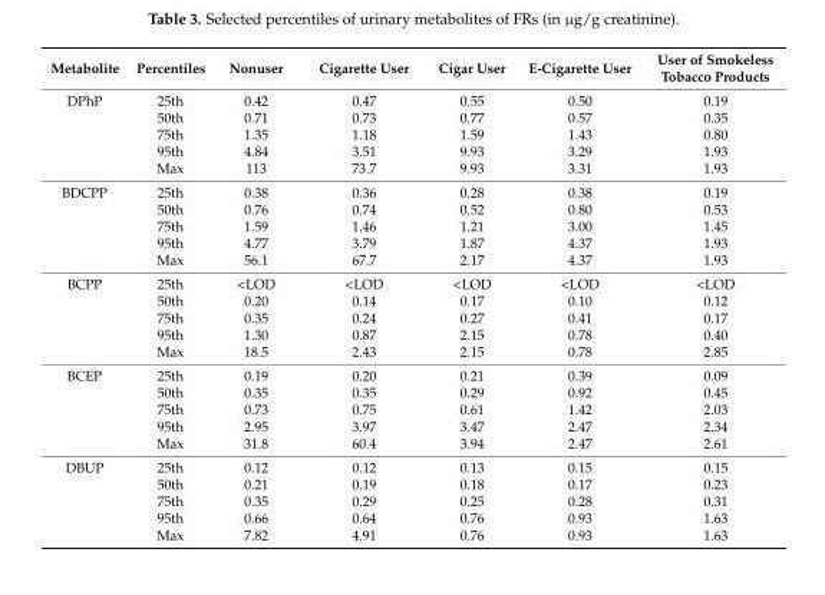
<table><thead><tr><td>Metabolite</td><td>Percentiles</td><td>Nonuser</td><td>Cigarette User</td><td>Cigar User</td><td>E-Cigarette User</td><td>User of Smokeless Tobacco Products</td></tr></thead><tbody><tr><td rowspan="5">DPhP</td><td>25th</td><td>0.42</td><td>0.47</td><td>0.55</td><td>0.50</td><td>0.19</td></tr><tr><td>50th</td><td>0.71</td><td>0.73</td><td>0.77</td><td>0.57</td><td>0.35</td></tr><tr><td>75th</td><td>1.35</td><td>1.18</td><td>1.59</td><td>1.43</td><td>0.80</td></tr><tr><td>95th</td><td>4.84</td><td>3.51</td><td>9.93</td><td>3.29</td><td>1.93</td></tr><tr><td>Max</td><td>113</td><td>73.7</td><td>9.93</td><td>3.31</td><td>1.93</td></tr><tr><td rowspan="5">BDCPP</td><td>25th</td><td>0.38</td><td>0.36</td><td>0.28</td><td>0.38</td><td>0.19</td></tr><tr><td>50th</td><td>0.76</td><td>0.74</td><td>0.52</td><td>0.80</td><td>0.53</td></tr><tr><td>75th</td><td>1.59</td><td>1.46</td><td>1.21</td><td>3.00</td><td>1.45</td></tr><tr><td>95th</td><td>4.77</td><td>3.79</td><td>1.87</td><td>4.37</td><td>1.93</td></tr><tr><td>Max</td><td>56.1</td><td>67.7</td><td>2.17</td><td>4.37</td><td>1.93</td></tr><tr><td rowspan="5">BCPP</td><td>25th</td><td>&lt;LOD</td><td>&lt;LOD</td><td>&lt;LOD</td><td>&lt;LOD</td><td>&lt;LOD</td></tr><tr><td>50th</td><td>0.20</td><td>0.14</td><td>0.17</td><td>0.10</td><td>0.12</td></tr><tr><td>75th</td><td>0.35</td><td>0.24</td><td>0.27</td><td>0.41</td><td>0.17</td></tr><tr><td>95th</td><td>1.30</td><td>0.87</td><td>2.15</td><td>0.78</td><td>0.40</td></tr><tr><td>Max</td><td>18.5</td><td>2.43</td><td>2.15</td><td>0.78</td><td>2.85</td></tr><tr><td rowspan="5">BCEP</td><td>25th</td><td>0.19</td><td>0.20</td><td>0.21</td><td>0.39</td><td>0.09</td></tr><tr><td>50th</td><td>0.35</td><td>0.35</td><td>0.29</td><td>0.92</td><td>0.45</td></tr><tr><td>75th</td><td>0.73</td><td>0.75</td><td>0.61</td><td>1.42</td><td>2.03</td></tr><tr><td>95th</td><td>2.95</td><td>3.97</td><td>3.47</td><td>2.47</td><td>2.34</td></tr><tr><td>Max</td><td>31.8</td><td>60.4</td><td>3.94</td><td>2.47</td><td>2.61</td></tr><tr><td rowspan="5">DBUP</td><td>25th</td><td>0.12</td><td>0.12</td><td>0.13</td><td>0.15</td><td>0.15</td></tr><tr><td>50th</td><td>0.21</td><td>0.19</td><td>0.18</td><td>0.17</td><td>0.23</td></tr><tr><td>75th</td><td>0.35</td><td>0.29</td><td>0.25</td><td>0.28</td><td>0.31</td></tr><tr><td>95th</td><td>0.66</td><td>0.64</td><td>0.76</td><td>0.93</td><td>1.63</td></tr><tr><td>Max</td><td>7.82</td><td>4.91</td><td>0.76</td><td>0.93</td><td>1.63</td></tr></tbody></table>